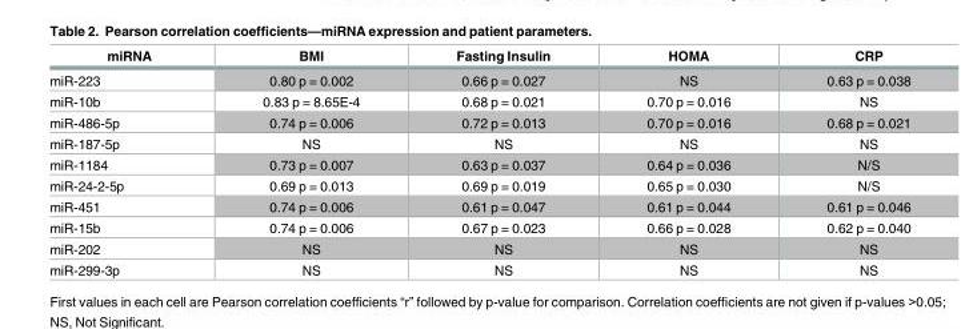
<table><thead><tr><td>miRNA</td><td>BMI</td><td>Fasting Insulin</td><td>HOMA</td><td>CRP</td></tr></thead><tbody><tr><td>miR-223</td><td>0.80 p = 0.002</td><td>0.66 p = 0.027</td><td>NS</td><td>0.63 p = 0.038</td></tr><tr><td>miR-10b</td><td>0.83 p = 8.65E-4</td><td>0.68 p = 0.021</td><td>0.70 p = 0.016</td><td>NS</td></tr><tr><td>miR-486-5p</td><td>0.74 p = 0.006</td><td>0.72 p = 0.013</td><td>0.70 p = 0.016</td><td>0.68 p = 0.021</td></tr><tr><td>miR-187-5p</td><td>NS</td><td>NS</td><td>NS</td><td>NS</td></tr><tr><td>miR-1184</td><td>0.73 p = 0.007</td><td>0.63 p = 0.037</td><td>0.64 p = 0.036</td><td>N/S</td></tr><tr><td>miR-24-2-5p</td><td>0.69 p = 0.013</td><td>0.69 p = 0.019</td><td>0.65 p = 0.030</td><td>N/S</td></tr><tr><td>miR-451</td><td>0.74 p = 0.006</td><td>0.61 p = 0.047</td><td>0.61 p = 0.044</td><td>0.61 p = 0.046</td></tr><tr><td>miR-15b</td><td>0.74 p = 0.006</td><td>0.67 p = 0.023</td><td>0.66 p = 0.028</td><td>0.62 p = 0.040</td></tr><tr><td>miR-202</td><td>NS</td><td>NS</td><td>NS</td><td>NS</td></tr><tr><td>miR-299-3p</td><td>NS</td><td>NS</td><td>NS</td><td>NS</td></tr></tbody></table>